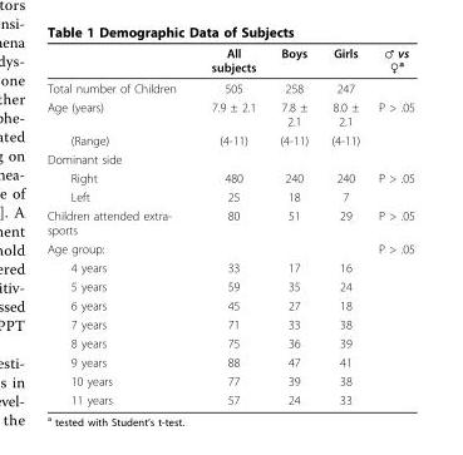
<table><thead><tr><td></td><td>All subjects</td><td>Boys</td><td>Girls</td><td>♂ vs ♀<sup>a</sup></td></tr></thead><tbody><tr><td>Total number of Children</td><td>505</td><td>258</td><td>247</td><td></td></tr><tr><td>Age (years)</td><td>7.9 ± 2.1</td><td>7.8 ± 2.1</td><td>8.0 ± 2.1</td><td>P &gt; .05</td></tr><tr><td>(Range)</td><td>(4-11)</td><td>(4-11)</td><td>(4-11)</td><td></td></tr><tr><td colspan="5">Dominant side</td></tr><tr><td>Right</td><td>480</td><td>240</td><td>240</td><td>P &gt; .05</td></tr><tr><td>Left</td><td>25</td><td>18</td><td>7</td><td></td></tr><tr><td>Children attended extra- sports</td><td>80</td><td>51</td><td>29</td><td>P &gt; .05</td></tr><tr><td>Age group:</td><td></td><td></td><td></td><td>P &gt; .05</td></tr><tr><td>4 years</td><td>33</td><td>17</td><td>16</td><td></td></tr><tr><td>5 years</td><td>59</td><td>35</td><td>24</td><td></td></tr><tr><td>6 years</td><td>45</td><td>27</td><td>18</td><td></td></tr><tr><td>7 years</td><td>71</td><td>33</td><td>38</td><td></td></tr><tr><td>8 years</td><td>75</td><td>36</td><td>39</td><td></td></tr><tr><td>9 years</td><td>88</td><td>47</td><td>41</td><td></td></tr><tr><td>10 years</td><td>77</td><td>39</td><td>38</td><td></td></tr><tr><td>11 years</td><td>57</td><td>24</td><td>33</td><td></td></tr></tbody></table>